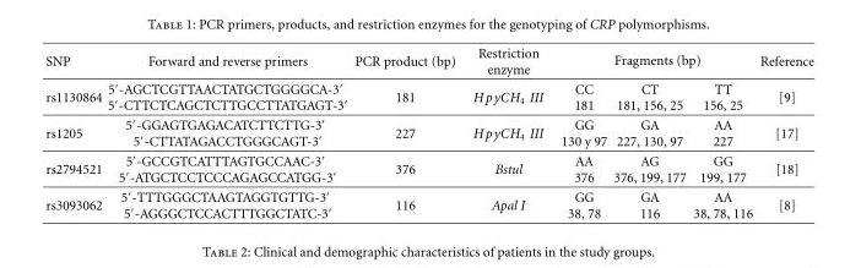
<table><thead><tr><td rowspan="2">SNP rs1130864</td><td rowspan="2">Forward and reverse primers 5′-AGCTCGTTAACTATGCTGGGGCA-3′ 5′-CTTCTCAGCTCTTGCCTTATGAGT-3′</td><td rowspan="2">PCR product (bp) 181</td><td rowspan="2">Restriction enzyme H pyCH4 III</td><td colspan="3">Fragments (bp)</td><td rowspan="2">Reference [9]</td></tr><tr><td>CC 181</td><td>CT 181, 156, 25</td><td>TT 156, 25</td></tr></thead><tbody><tr><td>rs1205</td><td>5′-GGAGTGAGACATCTTCTTG-3′ 5′-CTTATAGACCTGGGCAGT-3′</td><td>227</td><td>H pyCH<sub>4</sub> III</td><td>GG 130 y 97</td><td>GA 227, 130, 97</td><td>AA 227</td><td>[17]</td></tr><tr><td>rs2794521</td><td>5′-GCCGTCATTTAGTGCCAAC-3′ 5′-ATGCTCCTCCCAGAGCCATGG-3′</td><td>376</td><td>Bstul</td><td>AA 376</td><td>AG 376, 199, 177</td><td>GG 199, 177</td><td>[18]</td></tr><tr><td>rs3093062</td><td>5′-TTTGGGCTAAGTAGGTGTTG-3′ 5′-AGGGCTCCACTTTGGCTATC-3′</td><td>116</td><td>Apal I</td><td>GG 38, 78</td><td>GA 116</td><td>AA 38, 78, 116</td><td>[8]</td></tr></tbody></table>